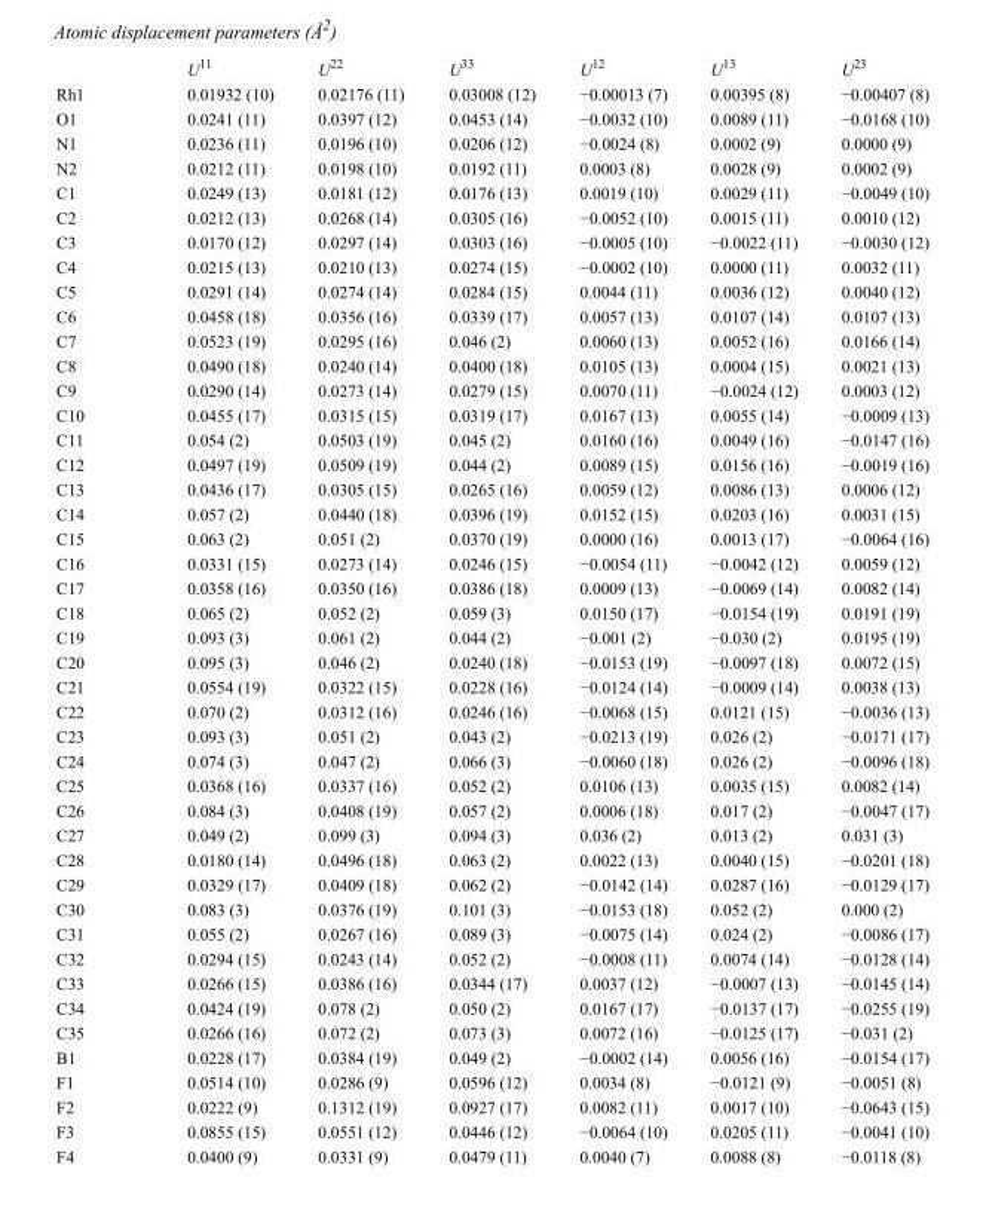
<table><thead><tr><td></td><td>U<sup>11</sup></td><td>U<sup>22</sup></td><td>U<sup>33</sup></td><td>U<sup>12</sup></td><td>U<sup>13</sup></td><td>U<sup>23</sup></td></tr></thead><tbody><tr><td>Rh1</td><td>0.01932 (10)</td><td>0.02176 (11)</td><td>0.03008 (12)</td><td>−0.00013 (7)</td><td>0.00395 (8)</td><td>−0.00407 (8)</td></tr><tr><td>O1</td><td>0.0241 (11)</td><td>0.0397 (12)</td><td>0.0453 (14)</td><td>−0.0032 (10)</td><td>0.0089 (11)</td><td>−0.0168 (10)</td></tr><tr><td>N1</td><td>0.0236 (11)</td><td>0.0196 (10)</td><td>0.0206 (12)</td><td>−0.0024 (8)</td><td>0.0002 (9)</td><td>0.0000 (9)</td></tr><tr><td>N2</td><td>0.0212 (11)</td><td>0.0198 (10)</td><td>0.0192 (11)</td><td>0.0003 (8)</td><td>0.0028 (9)</td><td>0.0002 (9)</td></tr><tr><td>C1</td><td>0.0249 (13)</td><td>0.0181 (12)</td><td>0.0176 (13)</td><td>0.0019 (10)</td><td>0.0029 (11)</td><td>−0.0049 (10)</td></tr><tr><td>C2</td><td>0.0212 (13)</td><td>0.0268 (14)</td><td>0.0305 (16)</td><td>−0.0052 (10)</td><td>0.0015 (11)</td><td>0.0010 (12)</td></tr><tr><td>C3</td><td>0.0170 (12)</td><td>0.0297 (14)</td><td>0.0303 (16)</td><td>−0.0005 (10)</td><td>−0.0022 (11)</td><td>−0.0030 (12)</td></tr><tr><td>C4</td><td>0.0215 (13)</td><td>0.0210 (13)</td><td>0.0274 (15)</td><td>−0.0002 (10)</td><td>0.0000 (11)</td><td>0.0032 (11)</td></tr><tr><td>C5</td><td>0.0291 (14)</td><td>0.0274 (14)</td><td>0.0284 (15)</td><td>0.0044 (11)</td><td>0.0036 (12)</td><td>0.0040 (12)</td></tr><tr><td>C6</td><td>0.0458 (18)</td><td>0.0356 (16)</td><td>0.0339 (17)</td><td>0.0057 (13)</td><td>0.0107 (14)</td><td>0.0107 (13)</td></tr><tr><td>C7</td><td>0.0523 (19)</td><td>0.0295 (16)</td><td>0.046 (2)</td><td>0.0060 (13)</td><td>0.0052 (16)</td><td>0.0166 (14)</td></tr><tr><td>C8</td><td>0.0490 (18)</td><td>0.0240 (14)</td><td>0.0400 (18)</td><td>0.0105 (13)</td><td>0.0004 (15)</td><td>0.0021 (13)</td></tr><tr><td>C9</td><td>0.0290 (14)</td><td>0.0273 (14)</td><td>0.0279 (15)</td><td>0.0070 (11)</td><td>−0.0024 (12)</td><td>0.0003 (12)</td></tr><tr><td>C10</td><td>0.0455 (17)</td><td>0.0315 (15)</td><td>0.0319 (17)</td><td>0.0167 (13)</td><td>0.0055 (14)</td><td>−0.0009 (13)</td></tr><tr><td>C11</td><td>0.054 (2)</td><td>0.0503 (19)</td><td>0.045 (2)</td><td>0.0160 (16)</td><td>0.0049 (16)</td><td>−0.0147 (16)</td></tr><tr><td>C12</td><td>0.0497 (19)</td><td>0.0509 (19)</td><td>0.044 (2)</td><td>0.0089 (15)</td><td>0.0156 (16)</td><td>−0.0019 (16)</td></tr><tr><td>C13</td><td>0.0436 (17)</td><td>0.0305 (15)</td><td>0.0265 (16)</td><td>0.0059 (12)</td><td>0.0086 (13)</td><td>0.0006 (12)</td></tr><tr><td>C14</td><td>0.057 (2)</td><td>0.0440 (18)</td><td>0.0396 (19)</td><td>0.0152 (15)</td><td>0.0203 (16)</td><td>0.0031 (15)</td></tr><tr><td>C15</td><td>0.063 (2)</td><td>0.051 (2)</td><td>0.0370 (19)</td><td>0.0000 (16)</td><td>0.0013 (17)</td><td>−0.0064 (16)</td></tr><tr><td>C16</td><td>0.0331 (15)</td><td>0.0273 (14)</td><td>0.0246 (15)</td><td>−0.0054 (11)</td><td>−0.0042 (12)</td><td>0.0059 (12)</td></tr><tr><td>C17</td><td>0.0358 (16)</td><td>0.0350 (16)</td><td>0.0386 (18)</td><td>0.0009 (13)</td><td>−0.0069 (14)</td><td>0.0082 (14)</td></tr><tr><td>C18</td><td>0.065 (2)</td><td>0.052 (2)</td><td>0.059 (3)</td><td>0.0150 (17)</td><td>−0.0154 (19)</td><td>0.0191 (19)</td></tr><tr><td>C19</td><td>0.093 (3)</td><td>0.061 (2)</td><td>0.044 (2)</td><td>−0.001 (2)</td><td>−0.030 (2)</td><td>0.0195 (19)</td></tr><tr><td>C20</td><td>0.095 (3)</td><td>0.046 (2)</td><td>0.0240 (18)</td><td>−0.0153 (19)</td><td>−0.0097 (18)</td><td>0.0072 (15)</td></tr><tr><td>C21</td><td>0.0554 (19)</td><td>0.0322 (15)</td><td>0.0228 (16)</td><td>−0.0124 (14)</td><td>−0.0009 (14)</td><td>0.0038 (13)</td></tr><tr><td>C22</td><td>0.070 (2)</td><td>0.0312 (16)</td><td>0.0246 (16)</td><td>−0.0068 (15)</td><td>0.0121 (15)</td><td>−0.0036 (13)</td></tr><tr><td>C23</td><td>0.093 (3)</td><td>0.051 (2)</td><td>0.043 (2)</td><td>−0.0213 (19)</td><td>0.026 (2)</td><td>−0.0171 (17)</td></tr><tr><td>C24</td><td>0.074 (3)</td><td>0.047 (2)</td><td>0.066 (3)</td><td>−0.0060 (18)</td><td>0.026 (2)</td><td>−0.0096 (18)</td></tr><tr><td>C25</td><td>0.0368 (16)</td><td>0.0337 (16)</td><td>0.052 (2)</td><td>0.0106 (13)</td><td>0.0035 (15)</td><td>0.0082 (14)</td></tr><tr><td>C26</td><td>0.084 (3)</td><td>0.0408 (19)</td><td>0.057 (2)</td><td>0.0006 (18)</td><td>0.017 (2)</td><td>−0.0047 (17)</td></tr><tr><td>C27</td><td>0.049 (2)</td><td>0.099 (3)</td><td>0.094 (3)</td><td>0.036 (2)</td><td>0.013 (2)</td><td>0.031 (3)</td></tr><tr><td>C28</td><td>0.0180 (14)</td><td>0.0496 (18)</td><td>0.063 (2)</td><td>0.0022 (13)</td><td>0.0040 (15)</td><td>−0.0201 (18)</td></tr><tr><td>C29</td><td>0.0329 (17)</td><td>0.0409 (18)</td><td>0.062 (2)</td><td>−0.0142 (14)</td><td>0.0287 (16)</td><td>−0.0129 (17)</td></tr><tr><td>C30</td><td>0.083 (3)</td><td>0.0376 (19)</td><td>0.101 (3)</td><td>−0.0153 (18)</td><td>0.052 (2)</td><td>0.000 (2)</td></tr><tr><td>C31</td><td>0.055 (2)</td><td>0.0267 (16)</td><td>0.089 (3)</td><td>−0.0075 (14)</td><td>0.024 (2)</td><td>−0.0086 (17)</td></tr><tr><td>C32</td><td>0.0294 (15)</td><td>0.0243 (14)</td><td>0.052 (2)</td><td>−0.0008 (11)</td><td>0.0074 (14)</td><td>−0.0128 (14)</td></tr><tr><td>C33</td><td>0.0266 (15)</td><td>0.0386 (16)</td><td>0.0344 (17)</td><td>0.0037 (12)</td><td>−0.0007 (13)</td><td>−0.0145 (14)</td></tr><tr><td>C34</td><td>0.0424 (19)</td><td>0.078 (2)</td><td>0.050 (2)</td><td>0.0167 (17)</td><td>−0.0137 (17)</td><td>−0.0255 (19)</td></tr><tr><td>C35</td><td>0.0266 (16)</td><td>0.072 (2)</td><td>0.073 (3)</td><td>0.0072 (16)</td><td>−0.0125 (17)</td><td>−0.031 (2)</td></tr><tr><td>B1</td><td>0.0228 (17)</td><td>0.0384 (19)</td><td>0.049 (2)</td><td>−0.0002 (14)</td><td>0.0056 (16)</td><td>−0.0154 (17)</td></tr><tr><td>F1</td><td>0.0514 (10)</td><td>0.0286 (9)</td><td>0.0596 (12)</td><td>0.0034 (8)</td><td>−0.0121 (9)</td><td>−0.0051 (8)</td></tr><tr><td>F2</td><td>0.0222 (9)</td><td>0.1312 (19)</td><td>0.0927 (17)</td><td>0.0082 (11)</td><td>0.0017 (10)</td><td>−0.0643 (15)</td></tr><tr><td>F3</td><td>0.0855 (15)</td><td>0.0551 (12)</td><td>0.0446 (12)</td><td>−0.0064 (10)</td><td>0.0205 (11)</td><td>−0.0041 (10)</td></tr><tr><td>F4</td><td>0.0400 (9)</td><td>0.0331 (9)</td><td>0.0479 (11)</td><td>0.0040 (7)</td><td>0.0088 (8)</td><td>−0.0118 (8)</td></tr></tbody></table>